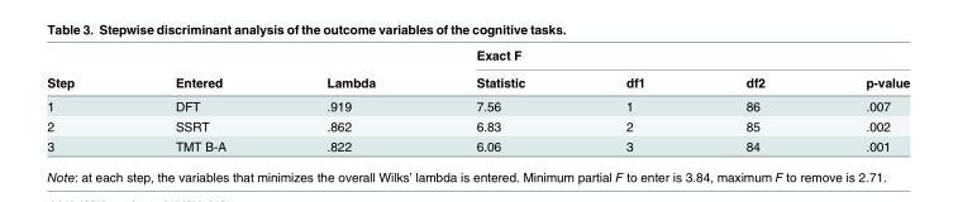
<table><thead><tr><td rowspan="2">Step</td><td rowspan="2">Entered</td><td rowspan="2">Lambda</td><td colspan="4">Exact F</td></tr><tr><td>Statistic</td><td>df1</td><td>df2</td><td>p-value</td></tr></thead><tbody><tr><td>1</td><td>DFT</td><td>.919</td><td>7.56</td><td>1</td><td>86</td><td>.007</td></tr><tr><td>2</td><td>SSRT</td><td>.862</td><td>6.83</td><td>2</td><td>85</td><td>.002</td></tr><tr><td>3</td><td>TMT B-A</td><td>.822</td><td>6.06</td><td>3</td><td>84</td><td>.001</td></tr></tbody></table>